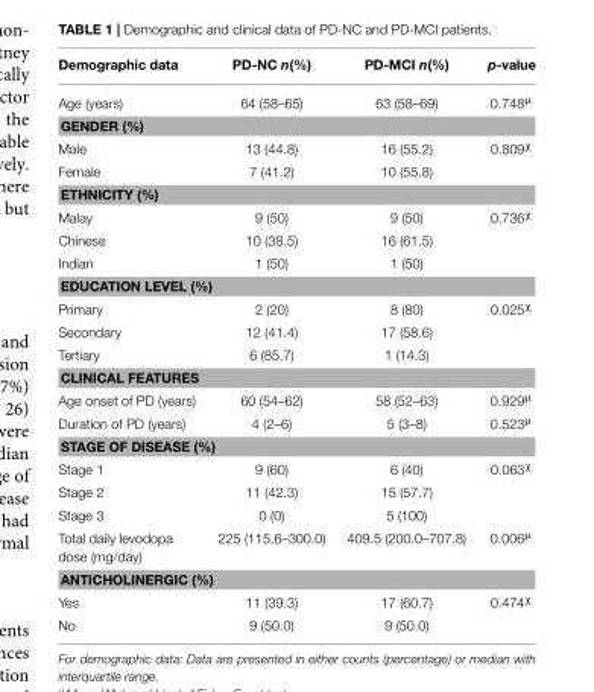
<table><thead><tr><td>Demographic data</td><td>PD-NC n(%)</td><td>PD-MCI n(%)</td><td>p-value</td></tr></thead><tbody><tr><td>Age (years)</td><td>64 (58–65)</td><td>63 (58–69)</td><td>0.748<sup>µ</sup></td></tr><tr><td colspan="4">GENDER (%)</td></tr><tr><td>Male</td><td>13 (44.8)</td><td>16 (55.2)</td><td>0.809<sup>χ</sup></td></tr><tr><td>Female</td><td>7 (41.2)</td><td>10 (55.8)</td><td></td></tr><tr><td colspan="4">ETHNICITY (%)</td></tr><tr><td>Malay</td><td>9 (50)</td><td>9 (50)</td><td>0.736<sup>χ</sup></td></tr><tr><td>Chinese</td><td>10 (38.5)</td><td>16 (61.5)</td><td></td></tr><tr><td>Indian</td><td>1 (50)</td><td>1 (50)</td><td></td></tr><tr><td colspan="4">EDUCATION LEVEL (%)</td></tr><tr><td>Primary</td><td>2 (20)</td><td>8 (80)</td><td>0.025<sup>χ</sup></td></tr><tr><td>Secondary</td><td>12 (41.4)</td><td>17 (58.6)</td><td></td></tr><tr><td>Tertiary</td><td>6 (85.7)</td><td>1 (14.3)</td><td></td></tr><tr><td colspan="4">CLINICAL FEATURES</td></tr><tr><td>Age onset of PD (years)</td><td>60 (54–62)</td><td>58 (52–63)</td><td>0.929<sup>µ</sup></td></tr><tr><td>Duration of PD (years)</td><td>4 (2–6)</td><td>5 (3–8)</td><td>0.523<sup>µ</sup></td></tr><tr><td colspan="4">STAGE OF DISEASE (%)</td></tr><tr><td>Stage 1</td><td>9 (60)</td><td>6 (40)</td><td>0.063<sup>χ</sup></td></tr><tr><td>Stage 2</td><td>11 (42.3)</td><td>15 (57.7)</td><td></td></tr><tr><td>Stage 3</td><td>0 (0)</td><td>5 (100)</td><td></td></tr><tr><td>Total daily levodopa dose (mg/day)</td><td>225 (115.6–300.0)</td><td>409.5 (200.0–707.8)</td><td>0.006<sup>µ</sup></td></tr><tr><td colspan="4">ANTICHOLINERGIC (%)</td></tr><tr><td>Yes</td><td>11 (39.3)</td><td>17 (60.7)</td><td>0.474<sup>χ</sup></td></tr><tr><td>No</td><td>9 (50.0)</td><td>9 (50.0)</td><td></td></tr></tbody></table>